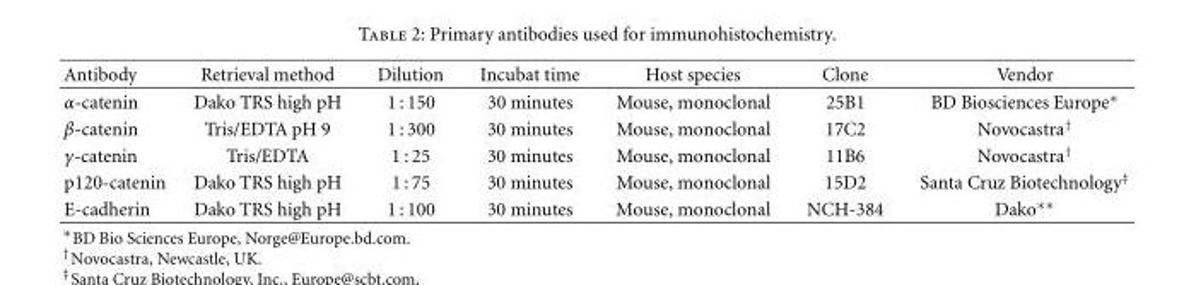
<table><thead><tr><td>Antibody</td><td>Retrieval method</td><td>Dilution</td><td>Incubat time</td><td>Host species</td><td>Clone</td><td>Vendor</td></tr></thead><tbody><tr><td>α-catenin</td><td>Dako TRS high pH</td><td>1 : 150</td><td>30 minutes</td><td>Mouse, monoclonal</td><td>25B1</td><td>BD Biosciences Europe∗</td></tr><tr><td>β-catenin</td><td>Tris/EDTA pH 9</td><td>1 : 300</td><td>30 minutes</td><td>Mouse, monoclonal</td><td>17C2</td><td>Novocastra<sup>†</sup></td></tr><tr><td>γ-catenin</td><td>Tris/EDTA</td><td>1 : 25</td><td>30 minutes</td><td>Mouse, monoclonal</td><td>11B6</td><td>Novocastra<sup>†</sup></td></tr><tr><td>p120-catenin</td><td>Dako TRS high pH</td><td>1 : 75</td><td>30 minutes</td><td>Mouse, monoclonal</td><td>15D2</td><td>Santa Cruz Biotechnology<sup>‡</sup></td></tr><tr><td>E-cadherin</td><td>Dako TRS high pH</td><td>1 : 100</td><td>30 minutes</td><td>Mouse, monoclonal</td><td>NCH-384</td><td>Dako∗∗</td></tr></tbody></table>